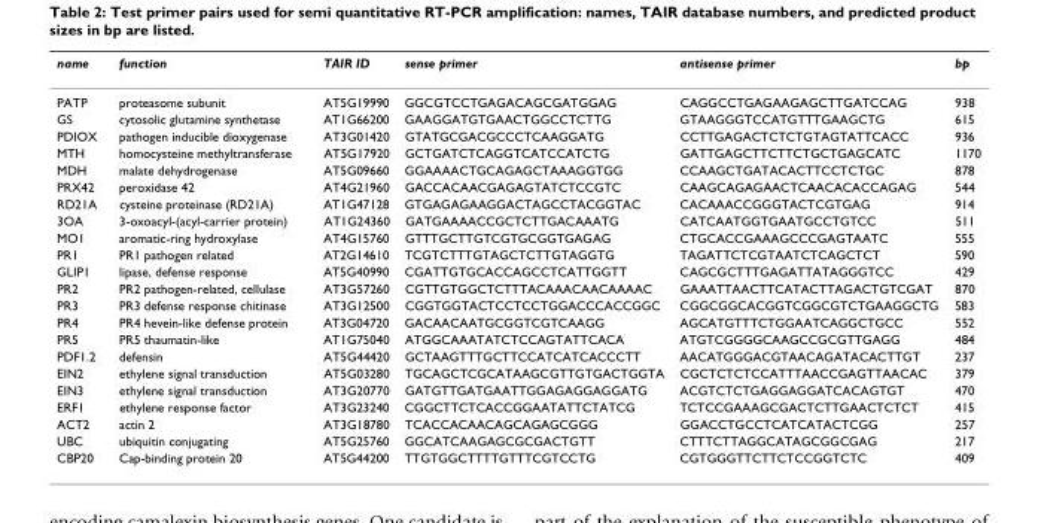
<table><thead><tr><td>name</td><td>function</td><td>TAIR ID</td><td>sense primer</td><td>antisense primer</td><td>bp</td></tr></thead><tbody><tr><td>PATP</td><td>proteasome subunit</td><td>AT5G19990</td><td>GGCGTCCTGAGACAGCGATGGAG</td><td>CAGGCCTGAGAAGAGCTTGATCCAG</td><td>938</td></tr><tr><td>GS</td><td>cytosolic glutamine synthetase</td><td>AT1G66200</td><td>GAAGGATGTGAACTGGCCTCTTG</td><td>GTAAGGGTCCATGTTTGAAGCTG</td><td>615</td></tr><tr><td>PDIOX</td><td>pathogen inducible dioxygenase</td><td>AT3G01420</td><td>GTATGCGACGCCCTCAAGGATG</td><td>CCTTGAGACTCTCTGTAGTATTCACC</td><td>936</td></tr><tr><td>MTH</td><td>homocysteine methyltransferase</td><td>AT5G17920</td><td>GCTGATCTCAGGTCATCCATCTG</td><td>GATTGAGCTTCTTCTGCTGAGCATC</td><td>1170</td></tr><tr><td>MDH</td><td>malate dehydrogenase</td><td>AT5G09660</td><td>GGAAAACTGCAGAGCTAAAGGTGG</td><td>CCAAGCTGATACACTTCCTCTGC</td><td>878</td></tr><tr><td>PRX42</td><td>peroxidase 42</td><td>AT4G21960</td><td>GACCACAACGAGAGTATCTCCGTC</td><td>CAAGCAGAGAACTCAACACACCAGAG</td><td>544</td></tr><tr><td>RD21A</td><td>cysteine proteinase (RD21A)</td><td>AT1G47128</td><td>GTGAGAGAAGGACTAGCCTACGGTAC</td><td>CACAAACCGGGTACTCGTGAG</td><td>914</td></tr><tr><td>3OA</td><td>3-oxoacyl-(acyl-carrier protein)</td><td>AT1G24360</td><td>GATGAAAACCGCTCTTGACAAATG</td><td>CATCAATGGTGAATGCCTGTCC</td><td>511</td></tr><tr><td>MO1</td><td>aromatic-ring hydroxylase</td><td>AT4G15760</td><td>GTTTGCTTGTCGTGCGGTGAGAG</td><td>CTGCACCGAAAGCCCGAGTAATC</td><td>555</td></tr><tr><td>PR1</td><td>PR1 pathogen related</td><td>AT2G14610</td><td>TCGTCTTTGTAGCTCTTGTAGGTG</td><td>TAGATTCTCGTAATCTCAGCTCT</td><td>590</td></tr><tr><td>GLIP1</td><td>lipase, defense response</td><td>AT5G40990</td><td>CGATTGTGCACCAGCCTCATTGGTT</td><td>CAGCGCTTTGAGATTATAGGGTCC</td><td>429</td></tr><tr><td>PR2</td><td>PR2 pathogen-related, cellulase</td><td>AT3G57260</td><td>CGTTGTGGCTCTTTACAAACAACAAAAC</td><td>GAAATTAACTTCATACTTAGACTGTCGAT</td><td>870</td></tr><tr><td>PR3</td><td>PR3 defense response chitinase</td><td>AT3G12500</td><td>CGGTGGTACTCCTCCTGGACCCACCGGC</td><td>CGGCGGCACGGTCGGCGTCTGAAGGCTG</td><td>583</td></tr><tr><td>PR4</td><td>PR4 hevein-like defense protein</td><td>AT3G04720</td><td>GACAACAATGCGGTCGTCAAGG</td><td>AGCATGTTTCTGGAATCAGGCTGCC</td><td>552</td></tr><tr><td>PR5</td><td>PR5 thaumatin-like</td><td>AT1G75040</td><td>ATGGCAAATATCTCCAGTATTCACA</td><td>ATGTCGGGGCAAGCCGCGTTGAGG</td><td>484</td></tr><tr><td>PDF1.2</td><td>defensin</td><td>AT5G44420</td><td>GCTAAGTTTGCTTCCATCATCACCCTT</td><td>AACATGGGACGTAACAGATACACTTGT</td><td>237</td></tr><tr><td>EIN2</td><td>ethylene signal transduction</td><td>AT5G03280</td><td>TGCAGCTCGCATAAGCGTTGTGACTGGTA</td><td>CGCTCTCTCCATTTAACCGAGTTAACAC</td><td>379</td></tr><tr><td>EIN3</td><td>ethylene signal transduction</td><td>AT3G20770</td><td>GATGTTGATGAATTGGAGAGGAGGATG</td><td>ACGTCTCTGAGGAGGATCACAGTGT</td><td>470</td></tr><tr><td>ERF1</td><td>ethylene response factor</td><td>AT3G23240</td><td>CGGCTTCTCACCGGAATATTCTATCG</td><td>TCTCCGAAAGCGACTCTTGAACTCTCT</td><td>415</td></tr><tr><td>ACT2</td><td>actin 2</td><td>AT3G18780</td><td>TCACCACAACAGCAGAGCGGG</td><td>GGACCTGCCTCATCATACTCGG</td><td>257</td></tr><tr><td>UBC</td><td>ubiquitin conjugating</td><td>AT5G25760</td><td>GGCATCAAGAGCGCGACTGTT</td><td>CTTTCTTAGGCATAGCGGCGAG</td><td>217</td></tr><tr><td>CBP20</td><td>Cap-binding protein 20</td><td>AT5G44200</td><td>TTGTGGCTTTTGTTTCGTCCTG</td><td>CGTGGGTTCTTCTCCGGTCTC</td><td>409</td></tr></tbody></table>